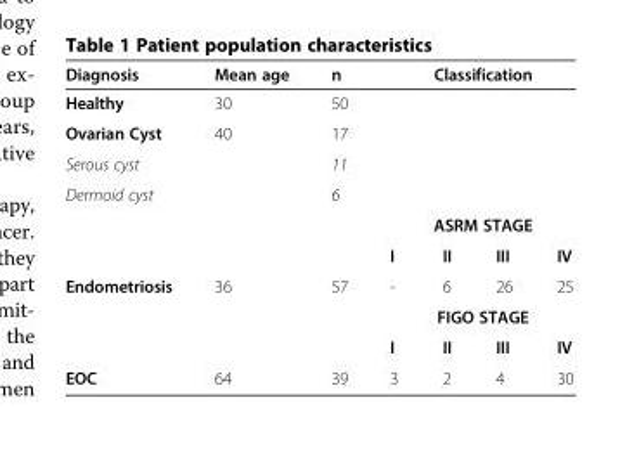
<table><thead><tr><td rowspan="2">Diagnosis Healthy</td><td rowspan="2">Mean age 30</td><td rowspan="2">n 50</td><td colspan="4">Classification</td></tr><tr><td></td><td></td><td></td><td></td></tr></thead><tbody><tr><td>Ovarian Cyst</td><td>40</td><td>17</td><td></td><td></td><td></td><td></td></tr><tr><td>Serous cyst</td><td></td><td>11</td><td></td><td></td><td></td><td></td></tr><tr><td rowspan="3">Dermoid cyst</td><td></td><td>6</td><td></td><td></td><td></td><td></td></tr><tr><td></td><td></td><td colspan="4">ASRM STAGE</td></tr><tr><td></td><td></td><td>I</td><td>II</td><td>III</td><td>IV</td></tr><tr><td rowspan="3">Endometriosis</td><td>36</td><td>57</td><td>-</td><td>6</td><td>26</td><td>25</td></tr><tr><td></td><td></td><td colspan="4">FIGO STAGE</td></tr><tr><td></td><td></td><td>I</td><td>II</td><td>III</td><td>IV</td></tr><tr><td>EOC</td><td>64</td><td>39</td><td>3</td><td>2</td><td>4</td><td>30</td></tr></tbody></table>